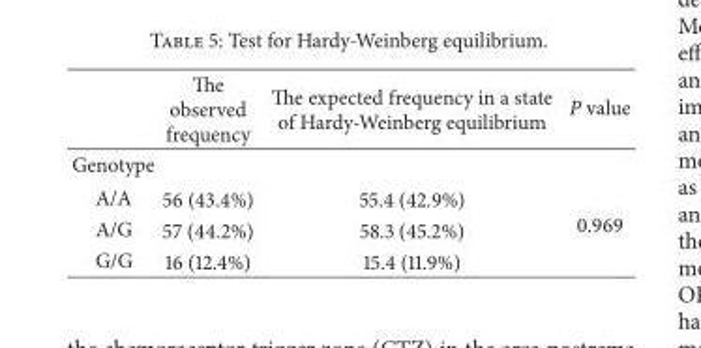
<table><thead><tr><td></td><td>The observed frequency</td><td>The expected frequency in a state of Hardy-Weinberg equilibrium</td><td>P value</td></tr></thead><tbody><tr><td colspan="4">Genotype</td></tr><tr><td>A/A</td><td>56 (43.4%)</td><td>55.4 (42.9%)</td><td rowspan="3">0.969</td></tr><tr><td>A/G</td><td>57 (44.2%)</td><td>58.3 (45.2%)</td></tr><tr><td>G/G</td><td>16 (12.4%)</td><td>15.4 (11.9%)</td></tr></tbody></table>